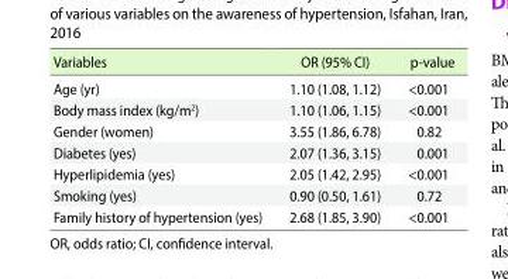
<table><thead><tr><td>Variables</td><td>OR (95% CI)</td><td>p-value</td></tr></thead><tbody><tr><td>Age (yr)</td><td>1.10 (1.08, 1.12)</td><td>&lt;0.001</td></tr><tr><td>Body mass index (kg/m<sup>2</sup>)</td><td>1.10 (1.06, 1.15)</td><td>&lt;0.001</td></tr><tr><td>Gender (women)</td><td>3.55 (1.86, 6.78)</td><td>0.82</td></tr><tr><td>Diabetes (yes)</td><td>2.07 (1.36, 3.15)</td><td>0.001</td></tr><tr><td>Hyperlipidemia (yes)</td><td>2.05 (1.42, 2.95)</td><td>&lt;0.001</td></tr><tr><td>Smoking (yes)</td><td>0.90 (0.50, 1.61)</td><td>0.72</td></tr><tr><td>Family history of hypertension (yes)</td><td>2.68 (1.85, 3.90)</td><td>&lt;0.001</td></tr></tbody></table>